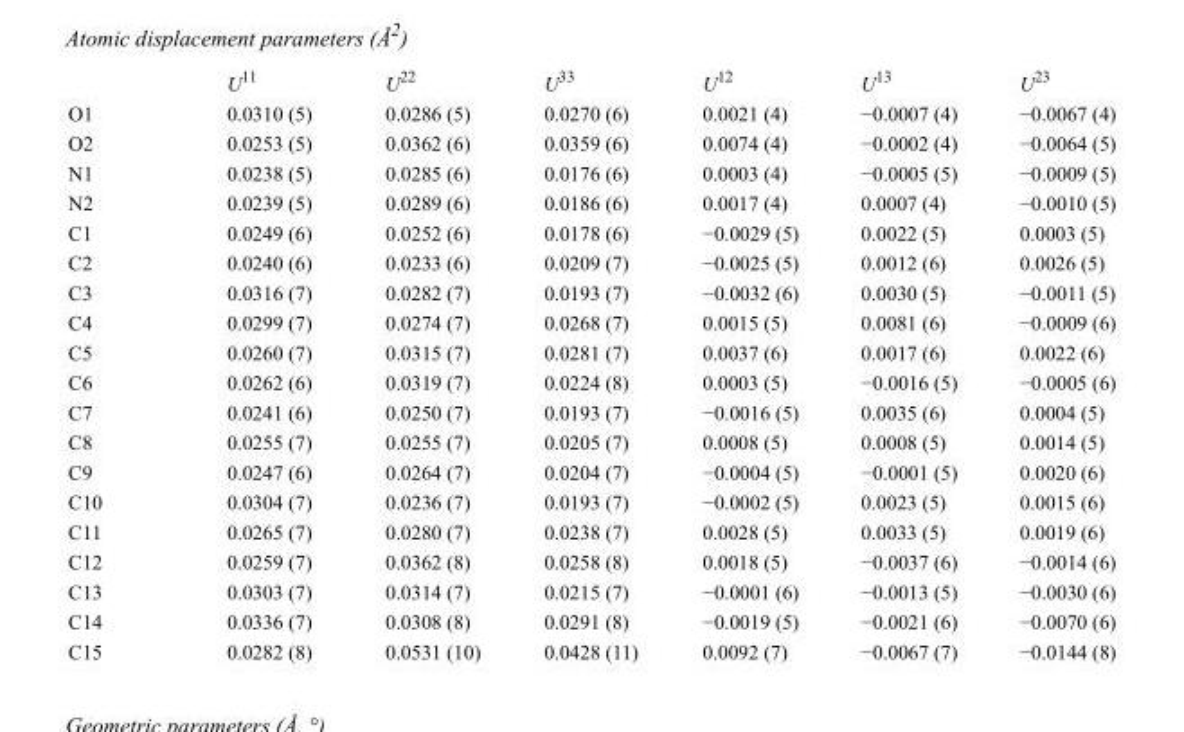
<table><thead><tr><td></td><td>U<sup>11</sup></td><td>U<sup>22</sup></td><td>U<sup>33</sup></td><td>U<sup>12</sup></td><td>U<sup>13</sup></td><td>U<sup>23</sup></td></tr></thead><tbody><tr><td>O1</td><td>0.0310 (5)</td><td>0.0286 (5)</td><td>0.0270 (6)</td><td>0.0021 (4)</td><td>−0.0007 (4)</td><td>−0.0067 (4)</td></tr><tr><td>O2</td><td>0.0253 (5)</td><td>0.0362 (6)</td><td>0.0359 (6)</td><td>0.0074 (4)</td><td>−0.0002 (4)</td><td>−0.0064 (5)</td></tr><tr><td>N1</td><td>0.0238 (5)</td><td>0.0285 (6)</td><td>0.0176 (6)</td><td>0.0003 (4)</td><td>−0.0005 (5)</td><td>−0.0009 (5)</td></tr><tr><td>N2</td><td>0.0239 (5)</td><td>0.0289 (6)</td><td>0.0186 (6)</td><td>0.0017 (4)</td><td>0.0007 (4)</td><td>−0.0010 (5)</td></tr><tr><td>C1</td><td>0.0249 (6)</td><td>0.0252 (6)</td><td>0.0178 (6)</td><td>−0.0029 (5)</td><td>0.0022 (5)</td><td>0.0003 (5)</td></tr><tr><td>C2</td><td>0.0240 (6)</td><td>0.0233 (6)</td><td>0.0209 (7)</td><td>−0.0025 (5)</td><td>0.0012 (6)</td><td>0.0026 (5)</td></tr><tr><td>C3</td><td>0.0316 (7)</td><td>0.0282 (7)</td><td>0.0193 (7)</td><td>−0.0032 (6)</td><td>0.0030 (5)</td><td>−0.0011 (5)</td></tr><tr><td>C4</td><td>0.0299 (7)</td><td>0.0274 (7)</td><td>0.0268 (7)</td><td>0.0015 (5)</td><td>0.0081 (6)</td><td>−0.0009 (6)</td></tr><tr><td>C5</td><td>0.0260 (7)</td><td>0.0315 (7)</td><td>0.0281 (7)</td><td>0.0037 (6)</td><td>0.0017 (6)</td><td>0.0022 (6)</td></tr><tr><td>C6</td><td>0.0262 (6)</td><td>0.0319 (7)</td><td>0.0224 (8)</td><td>0.0003 (5)</td><td>−0.0016 (5)</td><td>−0.0005 (6)</td></tr><tr><td>C7</td><td>0.0241 (6)</td><td>0.0250 (7)</td><td>0.0193 (7)</td><td>−0.0016 (5)</td><td>0.0035 (6)</td><td>0.0004 (5)</td></tr><tr><td>C8</td><td>0.0255 (7)</td><td>0.0255 (7)</td><td>0.0205 (7)</td><td>0.0008 (5)</td><td>0.0008 (5)</td><td>0.0014 (5)</td></tr><tr><td>C9</td><td>0.0247 (6)</td><td>0.0264 (7)</td><td>0.0204 (7)</td><td>−0.0004 (5)</td><td>−0.0001 (5)</td><td>0.0020 (6)</td></tr><tr><td>C10</td><td>0.0304 (7)</td><td>0.0236 (7)</td><td>0.0193 (7)</td><td>−0.0002 (5)</td><td>0.0023 (5)</td><td>0.0015 (6)</td></tr><tr><td>C11</td><td>0.0265 (7)</td><td>0.0280 (7)</td><td>0.0238 (7)</td><td>0.0028 (5)</td><td>0.0033 (5)</td><td>0.0019 (6)</td></tr><tr><td>C12</td><td>0.0259 (7)</td><td>0.0362 (8)</td><td>0.0258 (8)</td><td>0.0018 (5)</td><td>−0.0037 (6)</td><td>−0.0014 (6)</td></tr><tr><td>C13</td><td>0.0303 (7)</td><td>0.0314 (7)</td><td>0.0215 (7)</td><td>−0.0001 (6)</td><td>−0.0013 (5)</td><td>−0.0030 (6)</td></tr><tr><td>C14</td><td>0.0336 (7)</td><td>0.0308 (8)</td><td>0.0291 (8)</td><td>−0.0019 (5)</td><td>−0.0021 (6)</td><td>−0.0070 (6)</td></tr><tr><td>C15</td><td>0.0282 (8)</td><td>0.0531 (10)</td><td>0.0428 (11)</td><td>0.0092 (7)</td><td>−0.0067 (7)</td><td>−0.0144 (8)</td></tr></tbody></table>